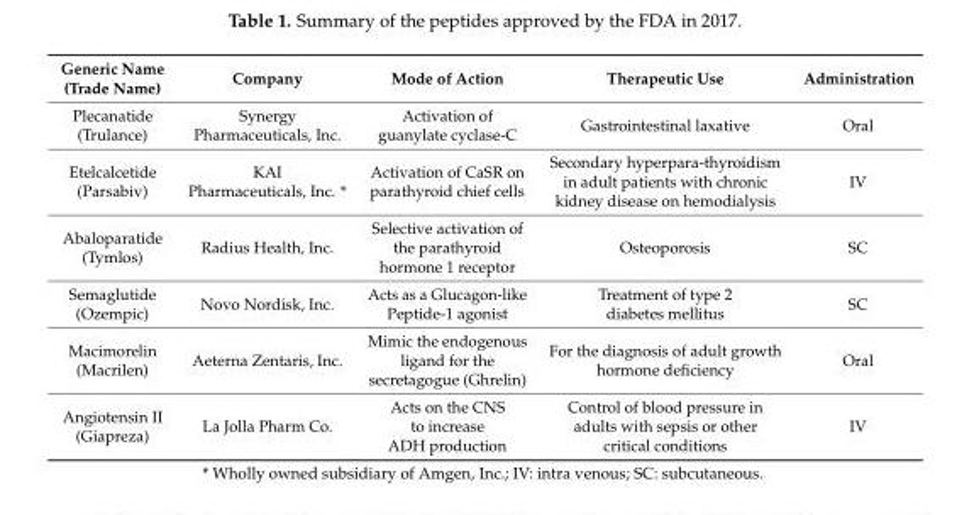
<table><thead><tr><td>Generic Name (Trade Name)</td><td>Company</td><td>Mode of Action</td><td>Therapeutic Use</td><td>Administration</td></tr></thead><tbody><tr><td>Plecanatide (Trulance)</td><td>Synergy Pharmaceuticals, Inc.</td><td>Activation of guanylate cyclase-C</td><td>Gastrointestinal laxative</td><td>Oral</td></tr><tr><td>Etelcalcetide (Parsabiv)</td><td>KAI Pharmaceuticals, Inc. *</td><td>Activation of CaSR on parathyroid chief cells</td><td>Secondary hyperpara-thyroidism in adult patients with chronic kidney disease on hemodialysis</td><td>IV</td></tr><tr><td>Abaloparatide (Tymlos)</td><td>Radius Health, Inc.</td><td>Selective activation of the parathyroid hormone 1 receptor</td><td>Osteoporosis</td><td>SC</td></tr><tr><td>Semaglutide (Ozempic)</td><td>Novo Nordisk, Inc.</td><td>Acts as a Glucagon-like Peptide-1 agonist</td><td>Treatment of type 2 diabetes mellitus</td><td>SC</td></tr><tr><td>Macimorelin (Macrilen)</td><td>Aeterna Zentaris, Inc.</td><td>Mimic the endogenous ligand for the secretagogue (Ghrelin)</td><td>For the diagnosis of adult growth hormone deficiency</td><td>Oral</td></tr><tr><td>Angiotensin II (Giapreza)</td><td>La Jolla Pharm Co.</td><td>Acts on the CNS to increase ADH production</td><td>Control of blood pressure in adults with sepsis or other critical conditions</td><td>IV</td></tr></tbody></table>